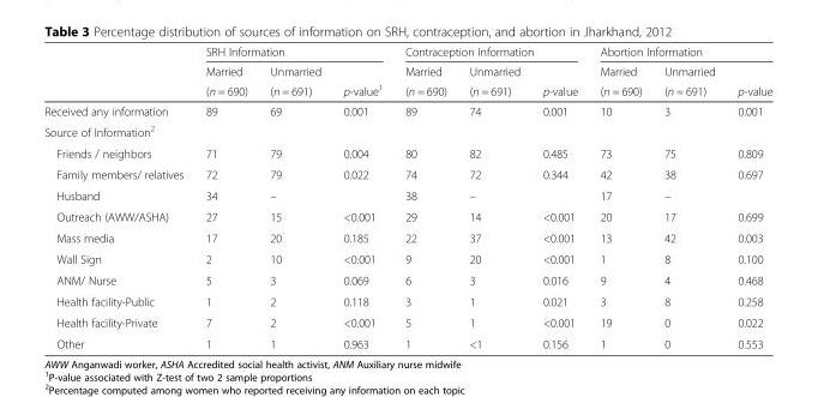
<table><thead><tr><td rowspan="3"></td><td colspan="3">SRH Information</td><td colspan="3">Contraception Information</td><td colspan="3">Abortion Information</td></tr><tr><td rowspan="2">Married (n = 690)</td><td rowspan="2">Unmarried (n = 691)</td><td rowspan="2">p-value<sup>1</sup></td><td rowspan="2">Married (n = 690)</td><td rowspan="2">Unmarried (n = 691)</td><td rowspan="2">p-value</td><td rowspan="2">Married (n = 690)</td><td rowspan="2">Unmarried (n = 691)</td><td rowspan="2">p-value</td></tr><tr></tr></thead><tbody><tr><td>Received any information</td><td>89</td><td>69</td><td>0.001</td><td>89</td><td>74</td><td>0.001</td><td>10</td><td>3</td><td>0.001</td></tr><tr><td colspan="10">Source of Information<sup>2</sup></td></tr><tr><td>Friends / neighbors</td><td>71</td><td>79</td><td>0.004</td><td>80</td><td>82</td><td>0.485</td><td>73</td><td>75</td><td>0.809</td></tr><tr><td>Family members/ relatives</td><td>72</td><td>79</td><td>0.022</td><td>74</td><td>72</td><td>0.344</td><td>42</td><td>38</td><td>0.697</td></tr><tr><td>Husband</td><td>34</td><td>–</td><td></td><td>38</td><td>–</td><td></td><td>17</td><td>–</td><td></td></tr><tr><td>Outreach (AWW/ASHA)</td><td>27</td><td>15</td><td>&lt;0.001</td><td>29</td><td>14</td><td>&lt;0.001</td><td>20</td><td>17</td><td>0.699</td></tr><tr><td>Mass media</td><td>17</td><td>20</td><td>0.185</td><td>22</td><td>37</td><td>&lt;0.001</td><td>13</td><td>42</td><td>0.003</td></tr><tr><td>Wall Sign</td><td>2</td><td>10</td><td>&lt;0.001</td><td>9</td><td>20</td><td>&lt;0.001</td><td>1</td><td>8</td><td>0.100</td></tr><tr><td>ANM/ Nurse</td><td>5</td><td>3</td><td>0.069</td><td>6</td><td>3</td><td>0.016</td><td>9</td><td>4</td><td>0.468</td></tr><tr><td>Health facility-Public</td><td>1</td><td>2</td><td>0.118</td><td>3</td><td>1</td><td>0.021</td><td>3</td><td>8</td><td>0.258</td></tr><tr><td>Health facility-Private</td><td>7</td><td>2</td><td>&lt;0.001</td><td>5</td><td>1</td><td>&lt;0.001</td><td>19</td><td>0</td><td>0.022</td></tr><tr><td>Other</td><td>1</td><td>1</td><td>0.963</td><td>1</td><td>&lt;1</td><td>0.156</td><td>1</td><td>0</td><td>0.553</td></tr></tbody></table>